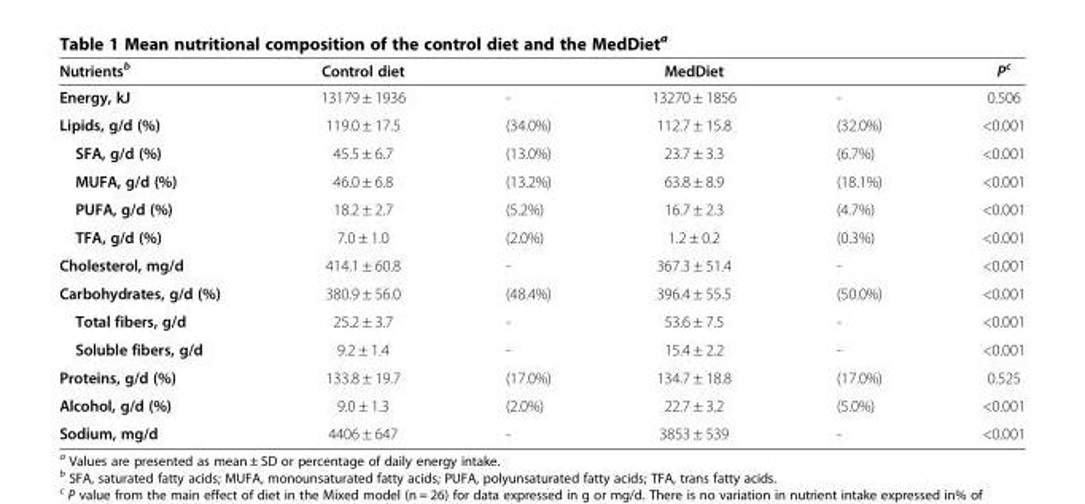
<table><thead><tr><td>Nutrients<sup>b</sup></td><td>Control diet</td><td></td><td>MedDiet</td><td></td><td>P<sup>c</sup></td></tr></thead><tbody><tr><td>Energy, kJ</td><td>13179 ± 1936</td><td>-</td><td>13270 ± 1856</td><td>-</td><td>0.506</td></tr><tr><td>Lipids, g/d (%)</td><td>119.0 ± 17.5</td><td>(34.0%)</td><td>112.7 ± 15.8</td><td>(32.0%)</td><td>&lt;0.001</td></tr><tr><td>SFA, g/d (%)</td><td>45.5 ± 6.7</td><td>(13.0%)</td><td>23.7 ± 3.3</td><td>(6.7%)</td><td>&lt;0.001</td></tr><tr><td>MUFA, g/d (%)</td><td>46.0 ± 6.8</td><td>(13.2%)</td><td>63.8 ± 8.9</td><td>(18.1%)</td><td>&lt;0.001</td></tr><tr><td>PUFA, g/d (%)</td><td>18.2 ± 2.7</td><td>(5.2%)</td><td>16.7 ± 2.3</td><td>(4.7%)</td><td>&lt;0.001</td></tr><tr><td>TFA, g/d (%)</td><td>7.0 ± 1.0</td><td>(2.0%)</td><td>1.2 ± 0.2</td><td>(0.3%)</td><td>&lt;0.001</td></tr><tr><td>Cholesterol, mg/d</td><td>414.1 ± 60.8</td><td>-</td><td>367.3 ± 51.4</td><td>-</td><td>&lt;0.001</td></tr><tr><td>Carbohydrates, g/d (%)</td><td>380.9 ± 56.0</td><td>(48.4%)</td><td>396.4 ± 55.5</td><td>(50.0%)</td><td>&lt;0.001</td></tr><tr><td>Total fibers, g/d</td><td>25.2 ± 3.7</td><td>-</td><td>53.6 ± 7.5</td><td>-</td><td>&lt;0.001</td></tr><tr><td>Soluble fibers, g/d</td><td>9.2 ± 1.4</td><td>-</td><td>15.4 ± 2.2</td><td>-</td><td>&lt;0.001</td></tr><tr><td>Proteins, g/d (%)</td><td>133.8 ± 19.7</td><td>(17.0%)</td><td>134.7 ± 18.8</td><td>(17.0%)</td><td>0.525</td></tr><tr><td>Alcohol, g/d (%)</td><td>9.0 ± 1.3</td><td>(2.0%)</td><td>22.7 ± 3.2</td><td>(5.0%)</td><td>&lt;0.001</td></tr><tr><td>Sodium, mg/d</td><td>4406 ± 647</td><td>-</td><td>3853 ± 539</td><td>-</td><td>&lt;0.001</td></tr></tbody></table>